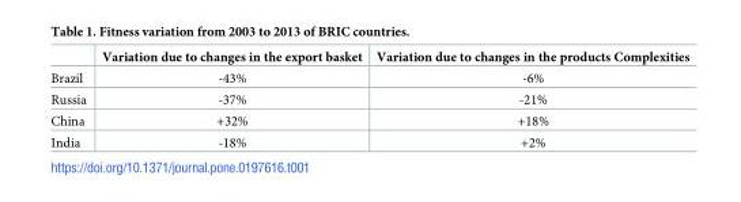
<table><thead><tr><td></td><td>Variation due to changes in the export basket</td><td>Variation due to changes in the products Complexities</td></tr></thead><tbody><tr><td>Brazil</td><td>-43%</td><td>-6%</td></tr><tr><td>Russia</td><td>-37%</td><td>-21%</td></tr><tr><td>China</td><td>+32%</td><td>+18%</td></tr><tr><td>India</td><td>-18%</td><td>+2%</td></tr></tbody></table>